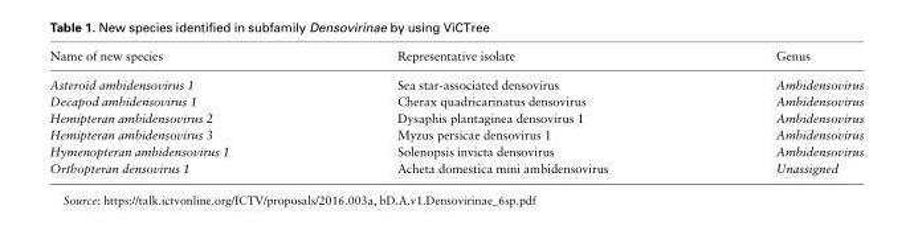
<table><thead><tr><td>Name of new species</td><td>Representative isolate</td><td>Genus</td></tr></thead><tbody><tr><td>Asteroid ambidensovirus 1</td><td>Sea star-associated densovirus</td><td>Ambidensovirus</td></tr><tr><td>Decapod ambidensovirus 1</td><td>Cherax quadricarinatus densovirus</td><td>Ambidensovirus</td></tr><tr><td>Hemipteran ambidensovirus 2</td><td>Dysaphis plantaginea densovirus 1</td><td>Ambidensovirus</td></tr><tr><td>Hemipteran ambidensovirus 3</td><td>Myzus persicae densovirus 1</td><td>Ambidensovirus</td></tr><tr><td>Hymenopteran ambidensovirus 1</td><td>Solenopsis invicta densovirus</td><td>Ambidensovirus</td></tr><tr><td>Orthopteran densovirus 1</td><td>Acheta domestica mini ambidensovirus</td><td>Unassigned</td></tr></tbody></table>